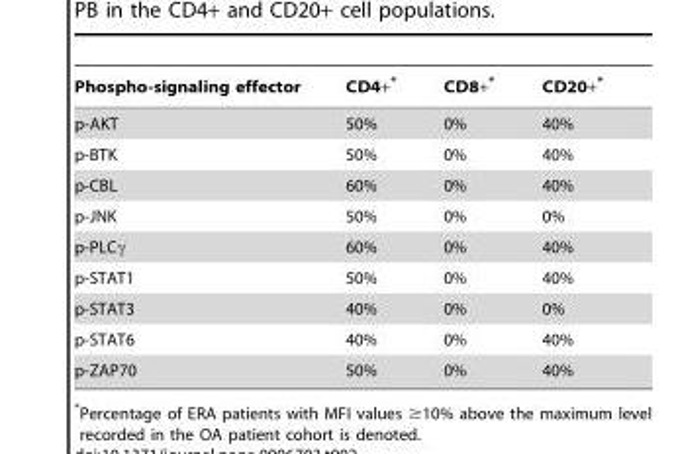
<table><thead><tr><td>Phospho-signaling effector</td><td>CD4+*</td><td>CD8+*</td><td>CD20+*</td></tr></thead><tbody><tr><td>p-AKT</td><td>50%</td><td>0%</td><td>40%</td></tr><tr><td>p-BTK</td><td>50%</td><td>0%</td><td>40%</td></tr><tr><td>p-CBL</td><td>60%</td><td>0%</td><td>40%</td></tr><tr><td>p-JNK</td><td>50%</td><td>0%</td><td>0%</td></tr><tr><td>p-PLCγ</td><td>60%</td><td>0%</td><td>40%</td></tr><tr><td>p-STAT1</td><td>50%</td><td>0%</td><td>40%</td></tr><tr><td>p-STAT3</td><td>40%</td><td>0%</td><td>0%</td></tr><tr><td>p-STAT6</td><td>40%</td><td>0%</td><td>40%</td></tr><tr><td>p-ZAP70</td><td>50%</td><td>0%</td><td>40%</td></tr></tbody></table>